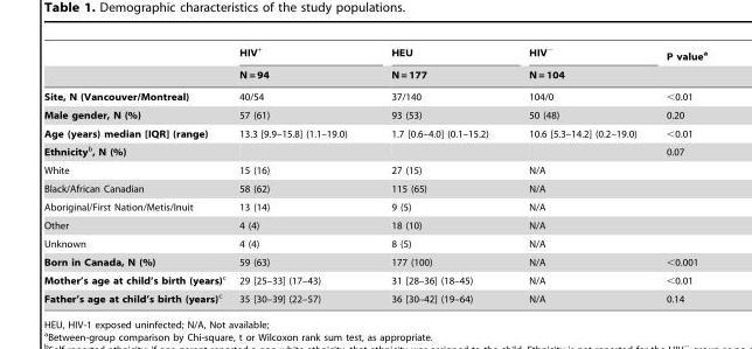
<table><thead><tr><td rowspan="2"></td><td rowspan="2">HIV<sup>+</sup> N = 94</td><td rowspan="2">HEU N = 177</td><td rowspan="2">HIV<sup>−</sup> N = 104</td><td rowspan="2">P value<sup>a</sup></td></tr><tr></tr></thead><tbody><tr><td>Site, N (Vancouver/Montreal)</td><td>40/54</td><td>37/140</td><td>104/0</td><td>&lt;0.01</td></tr><tr><td>Male gender, N (%)</td><td>57 (61)</td><td>93 (53)</td><td>50 (48)</td><td>0.20</td></tr><tr><td>Age (years) median [IQR] (range)</td><td>13.3 [9.9–15.8] (1.1–19.0)</td><td>1.7 [0.6–4.0] (0.1–15.2)</td><td>10.6 [5.3–14.2] (0.2–19.0)</td><td>&lt;0.01</td></tr><tr><td>Ethnicityb, N (%)</td><td></td><td></td><td></td><td>0.07</td></tr><tr><td>White</td><td>15 (16)</td><td>27 (15)</td><td>N/A</td><td></td></tr><tr><td>Black/African Canadian</td><td>58 (62)</td><td>115 (65)</td><td>N/A</td><td></td></tr><tr><td>Aboriginal/First Nation/Metis/Inuit</td><td>13 (14)</td><td>9 (5)</td><td>N/A</td><td></td></tr><tr><td>Other</td><td>4 (4)</td><td>18 (10)</td><td>N/A</td><td></td></tr><tr><td>Unknown</td><td>4 (4)</td><td>8 (5)</td><td>N/A</td><td></td></tr><tr><td>Born in Canada, N (%)</td><td>59 (63)</td><td>177 (100)</td><td>N/A</td><td>&lt;0.001</td></tr><tr><td>Mother’s age at child’s birth (years)c</td><td>29 [25–33] (17–43)</td><td>31 [28–36] (18–45)</td><td>N/A</td><td>&lt;0.01</td></tr><tr><td>Father’s age at child’s birth (years)c</td><td>35 [30–39] (22–57)</td><td>36 [30–42] (19–64)</td><td>N/A</td><td>0.14</td></tr></tbody></table>